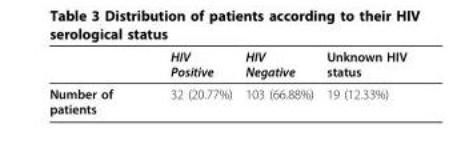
<table><thead><tr><td></td><td>HIV Positive</td><td>HIV Negative</td><td>Unknown HIV status</td></tr></thead><tbody><tr><td>Number of patients</td><td>32 (20.77%)</td><td>103 (66.88%)</td><td>19 (12.33%)</td></tr></tbody></table>